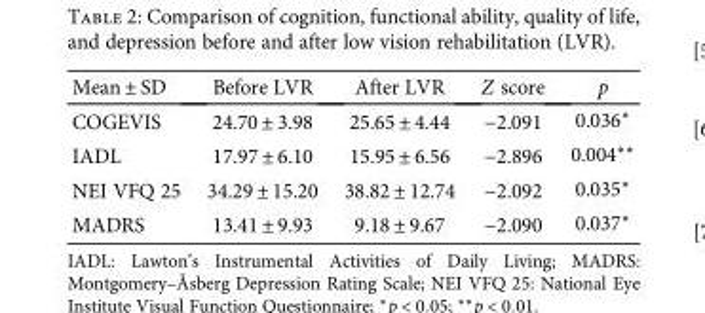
<table><thead><tr><td>Mean ± SD</td><td>Before LVR</td><td>After LVR</td><td>Z score</td><td>p</td></tr></thead><tbody><tr><td>COGEVIS</td><td>24.70 ± 3.98</td><td>25.65 ± 4.44</td><td>−2.091</td><td>0.036∗</td></tr><tr><td>IADL</td><td>17.97 ± 6.10</td><td>15.95 ± 6.56</td><td>−2.896</td><td>0.004∗∗</td></tr><tr><td>NEI VFQ 25</td><td>34.29 ± 15.20</td><td>38.82 ± 12.74</td><td>−2.092</td><td>0.035∗</td></tr><tr><td>MADRS</td><td>13.41 ± 9.93</td><td>9.18 ± 9.67</td><td>−2.090</td><td>0.037∗</td></tr></tbody></table>